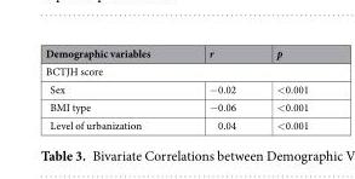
<table><thead><tr><td>Demographic variables</td><td>r</td><td>p</td></tr></thead><tbody><tr><td colspan="3">BCTJH score</td></tr><tr><td>Sex</td><td>−0.02</td><td>&lt;0.001</td></tr><tr><td>BMI type</td><td>−0.06</td><td>&lt;0.001</td></tr><tr><td>Level of urbanization</td><td>0.04</td><td>&lt;0.001</td></tr></tbody></table>